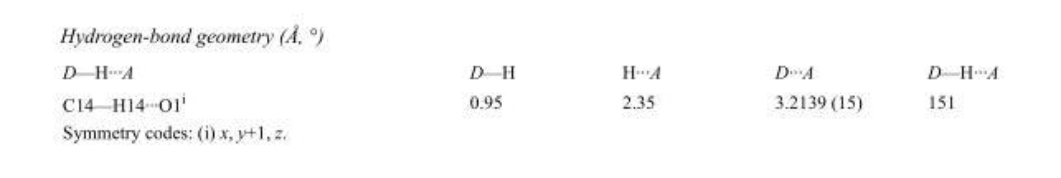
<table><tbody><tr><td>D—H···A</td><td>D—H</td><td>H···A</td><td>D···A</td><td>D—H···A</td></tr><tr><td>C14—H14···O1<sup>i</sup></td><td>0.95</td><td>2.35</td><td>3.2139 (15)</td><td>151</td></tr></tbody></table>